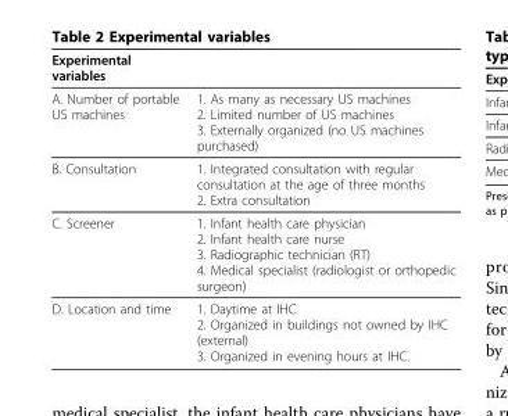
<table><thead><tr><td>Experimental variables</td><td></td></tr></thead><tbody><tr><td>A. Number of portable US machines</td><td>1. As many as necessary US machines 2. Limited number of US machines 3. Externally organized (no US machines purchased)</td></tr><tr><td>B. Consultation</td><td>1. Integrated consultation with regular consultation at the age of three months 2. Extra consultation</td></tr><tr><td>C. Screener</td><td>1. Infant health care physician 2. Infant health care nurse 3. Radiographic technician (RT) 4. Medical specialist (radiologist or orthopedic surgeon)</td></tr><tr><td>D. Location and time</td><td>1. Daytime at IHC 2. Organized in buildings not owned by IHC (external) 3. Organized in evening hours at IHC.</td></tr></tbody></table>